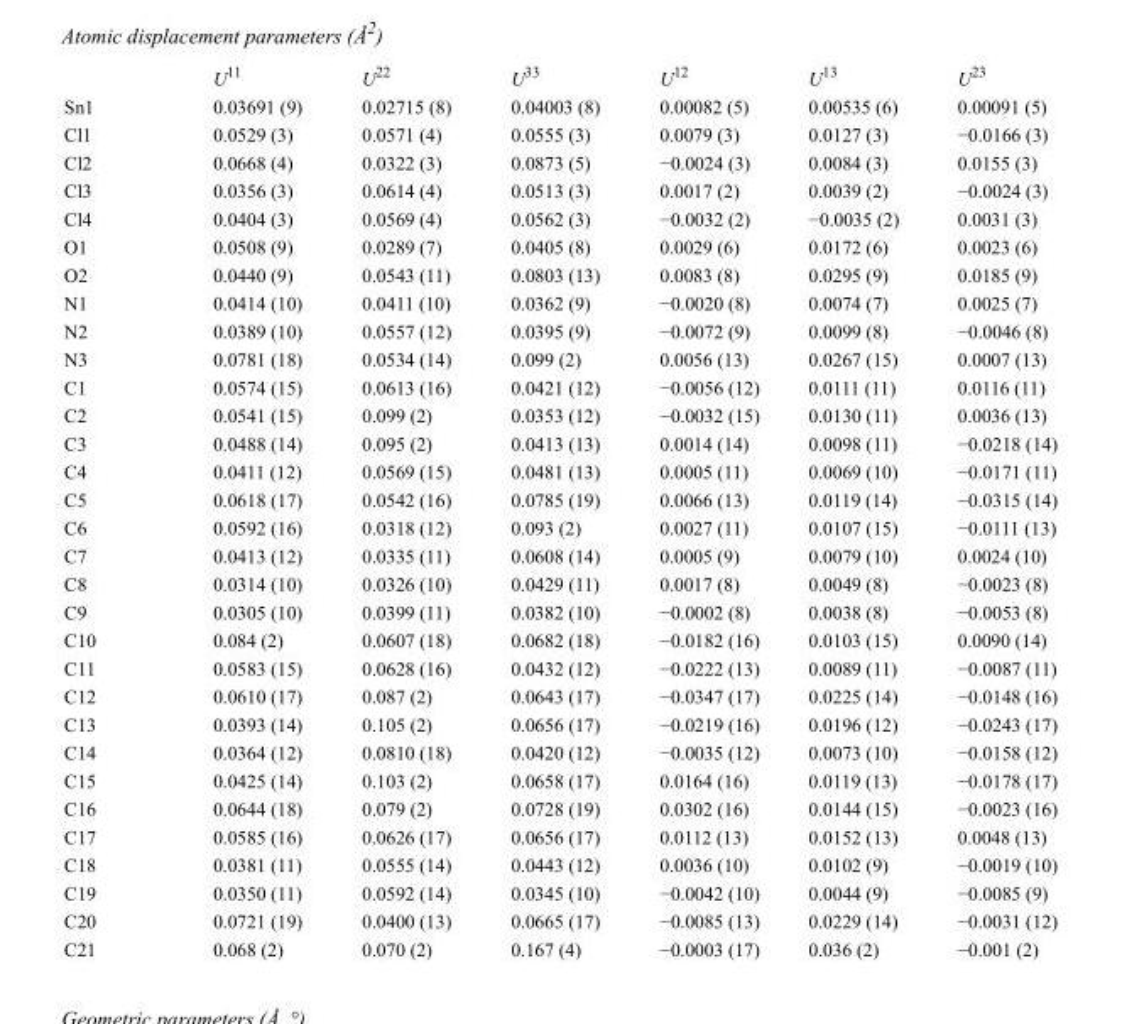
<table><thead><tr><td></td><td>U<sup>11</sup></td><td>U<sup>22</sup></td><td>U<sup>33</sup></td><td>U<sup>12</sup></td><td>U<sup>13</sup></td><td>U<sup>23</sup></td></tr></thead><tbody><tr><td>Sn1</td><td>0.03691 (9)</td><td>0.02715 (8)</td><td>0.04003 (8)</td><td>0.00082 (5)</td><td>0.00535 (6)</td><td>0.00091 (5)</td></tr><tr><td>Cl1</td><td>0.0529 (3)</td><td>0.0571 (4)</td><td>0.0555 (3)</td><td>0.0079 (3)</td><td>0.0127 (3)</td><td>−0.0166 (3)</td></tr><tr><td>Cl2</td><td>0.0668 (4)</td><td>0.0322 (3)</td><td>0.0873 (5)</td><td>−0.0024 (3)</td><td>0.0084 (3)</td><td>0.0155 (3)</td></tr><tr><td>Cl3</td><td>0.0356 (3)</td><td>0.0614 (4)</td><td>0.0513 (3)</td><td>0.0017 (2)</td><td>0.0039 (2)</td><td>−0.0024 (3)</td></tr><tr><td>Cl4</td><td>0.0404 (3)</td><td>0.0569 (4)</td><td>0.0562 (3)</td><td>−0.0032 (2)</td><td>−0.0035 (2)</td><td>0.0031 (3)</td></tr><tr><td>O1</td><td>0.0508 (9)</td><td>0.0289 (7)</td><td>0.0405 (8)</td><td>0.0029 (6)</td><td>0.0172 (6)</td><td>0.0023 (6)</td></tr><tr><td>O2</td><td>0.0440 (9)</td><td>0.0543 (11)</td><td>0.0803 (13)</td><td>0.0083 (8)</td><td>0.0295 (9)</td><td>0.0185 (9)</td></tr><tr><td>N1</td><td>0.0414 (10)</td><td>0.0411 (10)</td><td>0.0362 (9)</td><td>−0.0020 (8)</td><td>0.0074 (7)</td><td>0.0025 (7)</td></tr><tr><td>N2</td><td>0.0389 (10)</td><td>0.0557 (12)</td><td>0.0395 (9)</td><td>−0.0072 (9)</td><td>0.0099 (8)</td><td>−0.0046 (8)</td></tr><tr><td>N3</td><td>0.0781 (18)</td><td>0.0534 (14)</td><td>0.099 (2)</td><td>0.0056 (13)</td><td>0.0267 (15)</td><td>0.0007 (13)</td></tr><tr><td>C1</td><td>0.0574 (15)</td><td>0.0613 (16)</td><td>0.0421 (12)</td><td>−0.0056 (12)</td><td>0.0111 (11)</td><td>0.0116 (11)</td></tr><tr><td>C2</td><td>0.0541 (15)</td><td>0.099 (2)</td><td>0.0353 (12)</td><td>−0.0032 (15)</td><td>0.0130 (11)</td><td>0.0036 (13)</td></tr><tr><td>C3</td><td>0.0488 (14)</td><td>0.095 (2)</td><td>0.0413 (13)</td><td>0.0014 (14)</td><td>0.0098 (11)</td><td>−0.0218 (14)</td></tr><tr><td>C4</td><td>0.0411 (12)</td><td>0.0569 (15)</td><td>0.0481 (13)</td><td>0.0005 (11)</td><td>0.0069 (10)</td><td>−0.0171 (11)</td></tr><tr><td>C5</td><td>0.0618 (17)</td><td>0.0542 (16)</td><td>0.0785 (19)</td><td>0.0066 (13)</td><td>0.0119 (14)</td><td>−0.0315 (14)</td></tr><tr><td>C6</td><td>0.0592 (16)</td><td>0.0318 (12)</td><td>0.093 (2)</td><td>0.0027 (11)</td><td>0.0107 (15)</td><td>−0.0111 (13)</td></tr><tr><td>C7</td><td>0.0413 (12)</td><td>0.0335 (11)</td><td>0.0608 (14)</td><td>0.0005 (9)</td><td>0.0079 (10)</td><td>0.0024 (10)</td></tr><tr><td>C8</td><td>0.0314 (10)</td><td>0.0326 (10)</td><td>0.0429 (11)</td><td>0.0017 (8)</td><td>0.0049 (8)</td><td>−0.0023 (8)</td></tr><tr><td>C9</td><td>0.0305 (10)</td><td>0.0399 (11)</td><td>0.0382 (10)</td><td>−0.0002 (8)</td><td>0.0038 (8)</td><td>−0.0053 (8)</td></tr><tr><td>C10</td><td>0.084 (2)</td><td>0.0607 (18)</td><td>0.0682 (18)</td><td>−0.0182 (16)</td><td>0.0103 (15)</td><td>0.0090 (14)</td></tr><tr><td>C11</td><td>0.0583 (15)</td><td>0.0628 (16)</td><td>0.0432 (12)</td><td>−0.0222 (13)</td><td>0.0089 (11)</td><td>−0.0087 (11)</td></tr><tr><td>C12</td><td>0.0610 (17)</td><td>0.087 (2)</td><td>0.0643 (17)</td><td>−0.0347 (17)</td><td>0.0225 (14)</td><td>−0.0148 (16)</td></tr><tr><td>C13</td><td>0.0393 (14)</td><td>0.105 (2)</td><td>0.0656 (17)</td><td>−0.0219 (16)</td><td>0.0196 (12)</td><td>−0.0243 (17)</td></tr><tr><td>C14</td><td>0.0364 (12)</td><td>0.0810 (18)</td><td>0.0420 (12)</td><td>−0.0035 (12)</td><td>0.0073 (10)</td><td>−0.0158 (12)</td></tr><tr><td>C15</td><td>0.0425 (14)</td><td>0.103 (2)</td><td>0.0658 (17)</td><td>0.0164 (16)</td><td>0.0119 (13)</td><td>−0.0178 (17)</td></tr><tr><td>C16</td><td>0.0644 (18)</td><td>0.079 (2)</td><td>0.0728 (19)</td><td>0.0302 (16)</td><td>0.0144 (15)</td><td>−0.0023 (16)</td></tr><tr><td>C17</td><td>0.0585 (16)</td><td>0.0626 (17)</td><td>0.0656 (17)</td><td>0.0112 (13)</td><td>0.0152 (13)</td><td>0.0048 (13)</td></tr><tr><td>C18</td><td>0.0381 (11)</td><td>0.0555 (14)</td><td>0.0443 (12)</td><td>0.0036 (10)</td><td>0.0102 (9)</td><td>−0.0019 (10)</td></tr><tr><td>C19</td><td>0.0350 (11)</td><td>0.0592 (14)</td><td>0.0345 (10)</td><td>−0.0042 (10)</td><td>0.0044 (9)</td><td>−0.0085 (9)</td></tr><tr><td>C20</td><td>0.0721 (19)</td><td>0.0400 (13)</td><td>0.0665 (17)</td><td>−0.0085 (13)</td><td>0.0229 (14)</td><td>−0.0031 (12)</td></tr><tr><td>C21</td><td>0.068 (2)</td><td>0.070 (2)</td><td>0.167 (4)</td><td>−0.0003 (17)</td><td>0.036 (2)</td><td>−0.001 (2)</td></tr></tbody></table>